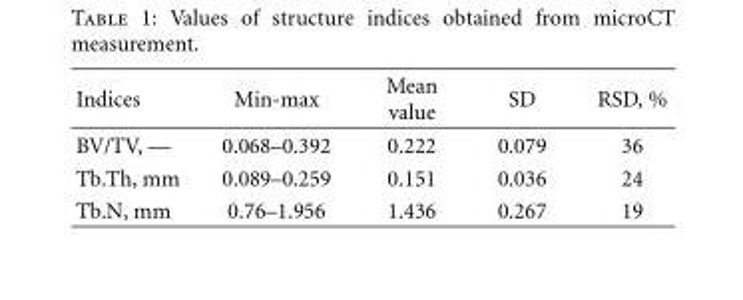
<table><thead><tr><td>Indices</td><td>Min-max</td><td>Mean value</td><td>SD</td><td>RSD, %</td></tr></thead><tbody><tr><td>BV/TV, —</td><td>0.068–0.392</td><td>0.222</td><td>0.079</td><td>36</td></tr><tr><td>Tb.Th, mm</td><td>0.089–0.259</td><td>0.151</td><td>0.036</td><td>24</td></tr><tr><td>Tb.N, mm</td><td>0.76–1.956</td><td>1.436</td><td>0.267</td><td>19</td></tr></tbody></table>